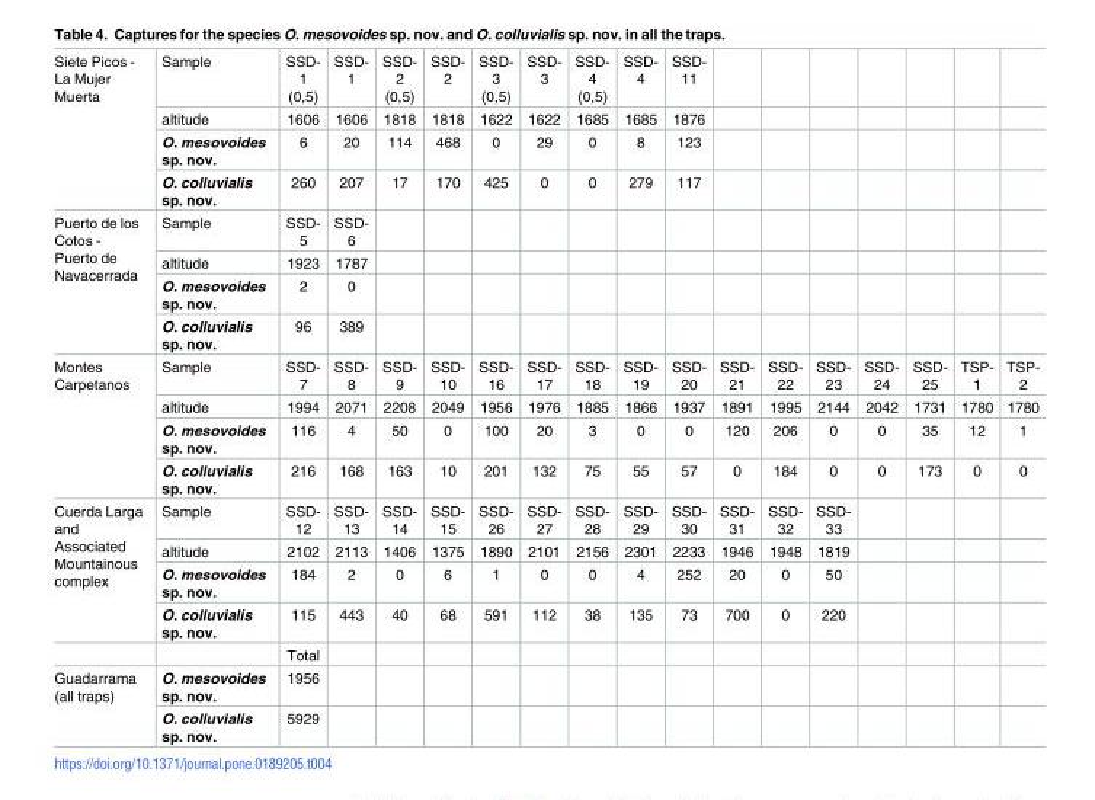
<table><tbody><tr><td rowspan="4">Siete Picos - La Mujer Muerta</td><td>Sample</td><td>SSD- 1 (0,5)</td><td>SSD- 1</td><td>SSD- 2 (0,5)</td><td>SSD- 2</td><td>SSD- 3 (0,5)</td><td>SSD- 3</td><td>SSD- 4 (0,5)</td><td>SSD- 4</td><td>SSD- 11</td><td></td><td></td><td></td><td></td><td></td><td></td><td></td></tr><tr><td>altitude</td><td>1606</td><td>1606</td><td>1818</td><td>1818</td><td>1622</td><td>1622</td><td>1685</td><td>1685</td><td>1876</td><td></td><td></td><td></td><td></td><td></td><td></td><td></td></tr><tr><td>O. mesovoides sp. nov.</td><td>6</td><td>20</td><td>114</td><td>468</td><td>0</td><td>29</td><td>0</td><td>8</td><td>123</td><td></td><td></td><td></td><td></td><td></td><td></td><td></td></tr><tr><td>O. colluvialis sp. nov.</td><td>260</td><td>207</td><td>17</td><td>170</td><td>425</td><td>0</td><td>0</td><td>279</td><td>117</td><td></td><td></td><td></td><td></td><td></td><td></td><td></td></tr><tr><td rowspan="4">Puerto de los Cotos - Puerto de Navacerrada</td><td>Sample</td><td>SSD- 5</td><td>SSD- 6</td><td></td><td></td><td></td><td></td><td></td><td></td><td></td><td></td><td></td><td></td><td></td><td></td><td></td><td></td></tr><tr><td>altitude</td><td>1923</td><td>1787</td><td></td><td></td><td></td><td></td><td></td><td></td><td></td><td></td><td></td><td></td><td></td><td></td><td></td><td></td></tr><tr><td>O. mesovoides sp. nov.</td><td>2</td><td>0</td><td></td><td></td><td></td><td></td><td></td><td></td><td></td><td></td><td></td><td></td><td></td><td></td><td></td><td></td></tr><tr><td>O. colluvialis sp. nov.</td><td>96</td><td>389</td><td></td><td></td><td></td><td></td><td></td><td></td><td></td><td></td><td></td><td></td><td></td><td></td><td></td><td></td></tr><tr><td rowspan="4">Montes Carpetanos</td><td>Sample</td><td>SSD- 7</td><td>SSD- 8</td><td>SSD- 9</td><td>SSD- 10</td><td>SSD- 16</td><td>SSD- 17</td><td>SSD- 18</td><td>SSD- 19</td><td>SSD- 20</td><td>SSD- 21</td><td>SSD- 22</td><td>SSD- 23</td><td>SSD- 24</td><td>SSD- 25</td><td>TSP- 1</td><td>TSP- 2</td></tr><tr><td>altitude</td><td>1994</td><td>2071</td><td>2208</td><td>2049</td><td>1956</td><td>1976</td><td>1885</td><td>1866</td><td>1937</td><td>1891</td><td>1995</td><td>2144</td><td>2042</td><td>1731</td><td>1780</td><td>1780</td></tr><tr><td>O. mesovoides sp. nov.</td><td>116</td><td>4</td><td>50</td><td>0</td><td>100</td><td>20</td><td>3</td><td>0</td><td>0</td><td>120</td><td>206</td><td>0</td><td>0</td><td>35</td><td>12</td><td>1</td></tr><tr><td>O. colluvialis sp. nov.</td><td>216</td><td>168</td><td>163</td><td>10</td><td>201</td><td>132</td><td>75</td><td>55</td><td>57</td><td>0</td><td>184</td><td>0</td><td>0</td><td>173</td><td>0</td><td>0</td></tr><tr><td rowspan="5">Cuerda Larga and Associated Mountainous complex</td><td>Sample</td><td>SSD- 12</td><td>SSD- 13</td><td>SSD- 14</td><td>SSD- 15</td><td>SSD- 26</td><td>SSD- 27</td><td>SSD- 28</td><td>SSD- 29</td><td>SSD- 30</td><td>SSD- 31</td><td>SSD- 32</td><td>SSD- 33</td><td></td><td></td><td></td><td></td></tr><tr><td>altitude</td><td>2102</td><td>2113</td><td>1406</td><td>1375</td><td>1890</td><td>2101</td><td>2156</td><td>2301</td><td>2233</td><td>1946</td><td>1948</td><td>1819</td><td></td><td></td><td></td><td></td></tr><tr><td>O. mesovoides sp. nov.</td><td>184</td><td>2</td><td>0</td><td>6</td><td>1</td><td>0</td><td>0</td><td>4</td><td>252</td><td>20</td><td>0</td><td>50</td><td></td><td></td><td></td><td></td></tr><tr><td>O. colluvialis sp. nov.</td><td>115</td><td>443</td><td>40</td><td>68</td><td>591</td><td>112</td><td>38</td><td>135</td><td>73</td><td>700</td><td>0</td><td>220</td><td></td><td></td><td></td><td></td></tr><tr><td></td><td>Total</td><td></td><td></td><td></td><td></td><td></td><td></td><td></td><td></td><td></td><td></td><td></td><td></td><td></td><td></td><td></td></tr><tr><td rowspan="2">Guadarrama (all traps)</td><td>O. mesovoides sp. nov.</td><td>1956</td><td></td><td></td><td></td><td></td><td></td><td></td><td></td><td></td><td></td><td></td><td></td><td></td><td></td><td></td><td></td></tr><tr><td>O. colluvialis sp. nov.</td><td>5929</td><td></td><td></td><td></td><td></td><td></td><td></td><td></td><td></td><td></td><td></td><td></td><td></td><td></td><td></td><td></td></tr></tbody></table>